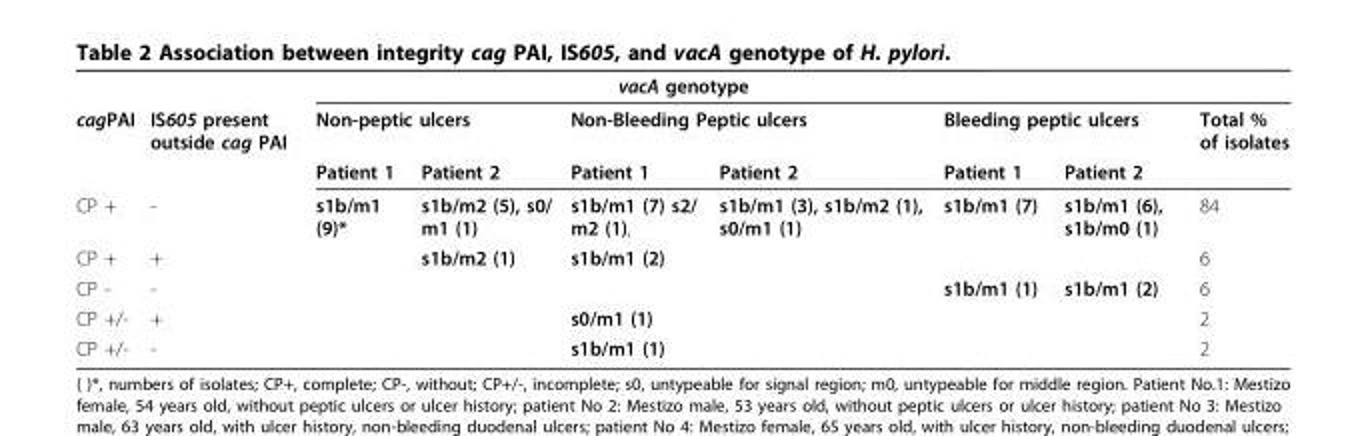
<table><tbody><tr><td colspan="9">vacA genotype</td></tr><tr><td rowspan="2">cagPAI</td><td>IS605 present outside cag PAI</td><td colspan="2">Non-peptic ulcers</td><td colspan="2">Non-Bleeding Peptic ulcers</td><td colspan="2">Bleeding peptic ulcers</td><td>Total % of isolates</td></tr><tr><td></td><td>Patient 1</td><td>Patient 2</td><td>Patient 1</td><td>Patient 2</td><td>Patient 1</td><td>Patient 2</td><td></td></tr><tr><td>CP +</td><td>-</td><td>s1b/m1 (9)*</td><td>s1b/m2 (5), s0/ m1 (1)</td><td>s1b/m1 (7) s2/ m2 (1),</td><td>s1b/m1 (3), s1b/m2 (1), s0/m1 (1)</td><td>s1b/m1 (7)</td><td>s1b/m1 (6), s1b/m0 (1)</td><td>84</td></tr><tr><td>CP +</td><td>+</td><td></td><td>s1b/m2 (1)</td><td>s1b/m1 (2)</td><td></td><td></td><td></td><td>6</td></tr><tr><td>CP -</td><td>-</td><td></td><td></td><td></td><td></td><td>s1b/m1 (1)</td><td>s1b/m1 (2)</td><td>6</td></tr><tr><td>CP +/-</td><td>+</td><td></td><td></td><td>s0/m1 (1)</td><td></td><td></td><td></td><td>2</td></tr><tr><td>CP +/-</td><td>-</td><td></td><td></td><td>s1b/m1 (1)</td><td></td><td></td><td></td><td>2</td></tr></tbody></table>